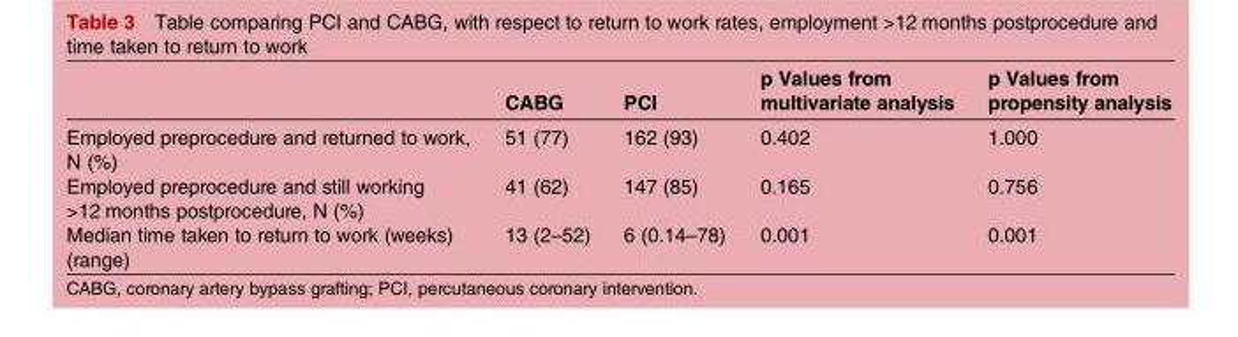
<table><thead><tr><td></td><td>CABG</td><td>PCI</td><td>p Values from multivariate analysis</td><td>p Values from propensity analysis</td></tr></thead><tbody><tr><td>Employed preprocedure and returned to work, N (%)</td><td>51 (77)</td><td>162 (93)</td><td>0.402</td><td>1.000</td></tr><tr><td>Employed preprocedure and still working &gt;12 months postprocedure, N (%)</td><td>41 (62)</td><td>147 (85)</td><td>0.165</td><td>0.756</td></tr><tr><td>Median time taken to return to work (weeks) (range)</td><td>13 (2–52)</td><td>6 (0.14–78)</td><td>0.001</td><td>0.001</td></tr></tbody></table>